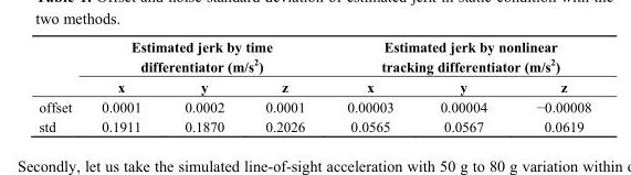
<table><thead><tr><td rowspan="2"></td><td colspan="3">Estimated jerk by time differentiator (m/s<sup>2</sup>)</td><td colspan="3">Estimated jerk by nonlinear tracking differentiator (m/s<sup>2</sup>)</td></tr><tr><td>x</td><td>y</td><td>z</td><td>x</td><td>y</td><td>z</td></tr></thead><tbody><tr><td>offset</td><td>0.0001</td><td>0.0002</td><td>0.0001</td><td>0.00003</td><td>0.00004</td><td>−0.00008</td></tr><tr><td>std</td><td>0.1911</td><td>0.1870</td><td>0.2026</td><td>0.0565</td><td>0.0567</td><td>0.0619</td></tr></tbody></table>